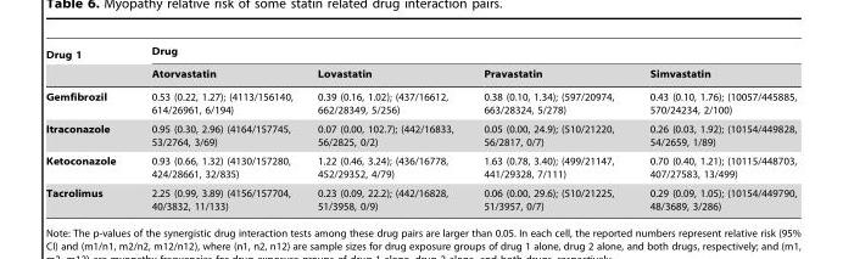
<table><thead><tr><td rowspan="2">Drug 1</td><td colspan="4">Drug</td></tr><tr><td>Atorvastatin</td><td>Lovastatin</td><td>Pravastatin</td><td>Simvastatin</td></tr></thead><tbody><tr><td>Gemfibrozil</td><td>0.53 (0.22, 1.27); (4113/156140, 614/26961, 6/194)</td><td>0.39 (0.16, 1.02); (437/16612, 662/28349, 5/256)</td><td>0.38 (0.10, 1.34); (597/20974, 663/28324, 5/278)</td><td>0.43 (0.10, 1.76); (10057/445885, 570/24234, 2/100)</td></tr><tr><td>Itraconazole</td><td>0.95 (0.30, 2.96) (4164/157745, 53/2764, 3/69)</td><td>0.07 (0.00, 102.7); (442/16833, 56/2825, 0/2)</td><td>0.05 (0.00, 24.9); (510/21220, 56/2817, 0/7)</td><td>0.26 (0.03, 1.92); (10154/449828, 54/2659, 1/89)</td></tr><tr><td>Ketoconazole</td><td>0.93 (0.66, 1.32) (4130/157280, 424/28661, 32/835)</td><td>1.22 (0.46, 3.24); (436/16778, 452/29352, 4/79)</td><td>1.63 (0.78, 3.40); (499/21147, 441/29328, 7/111)</td><td>0.70 (0.40, 1.21); (10115/448703, 407/27583, 13/499)</td></tr><tr><td>Tacrolimus</td><td>2.25 (0.99, 3.89) (4156/157704, 40/3832, 11/133)</td><td>0.23 (0.09, 22.2); (442/16828, 51/3958, 0/9)</td><td>0.06 (0.00, 29.6); (510/21225, 51/3957, 0/7)</td><td>0.29 (0.09, 1.05); (10154/449790, 48/3689, 3/286)</td></tr></tbody></table>